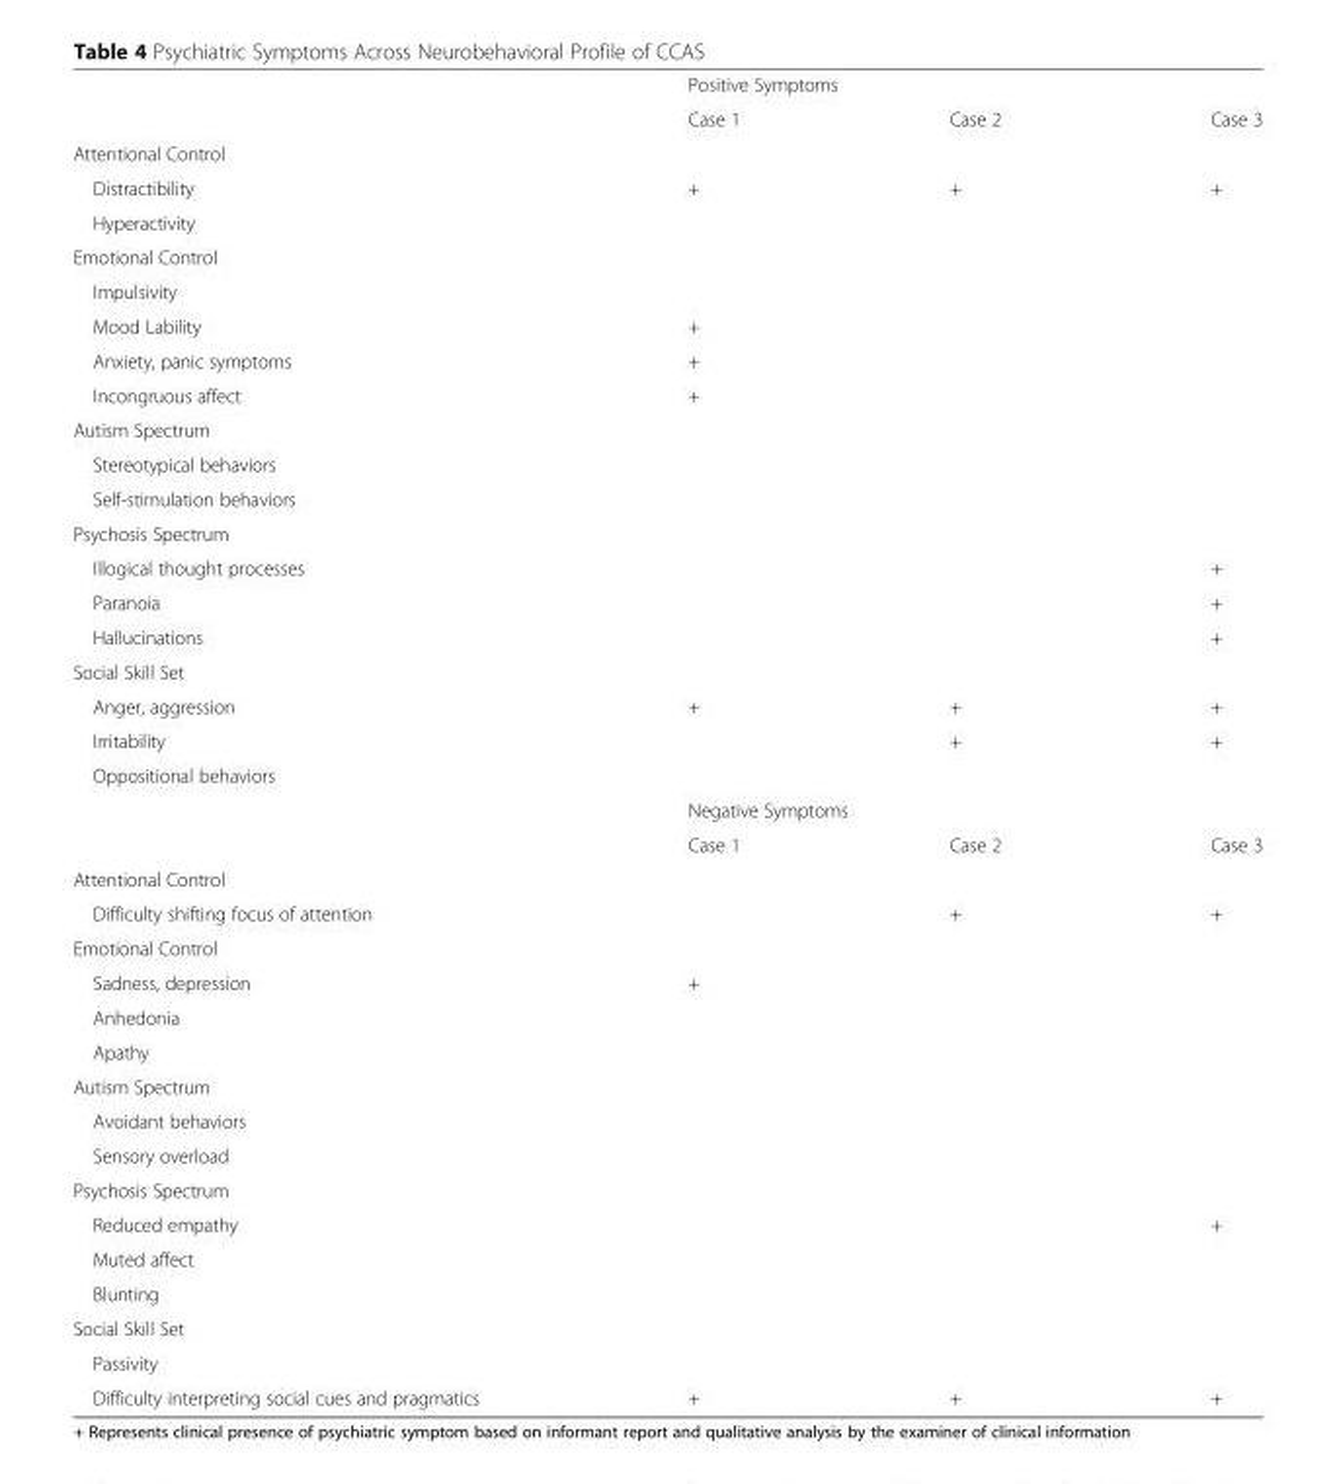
<table><thead><tr><td rowspan="2"></td><td colspan="3">Positive Symptoms</td></tr><tr><td>Case 1</td><td>Case 2</td><td>Case 3</td></tr></thead><tbody><tr><td colspan="4">Attentional Control</td></tr><tr><td>Distractibility</td><td>+</td><td>+</td><td>+</td></tr><tr><td colspan="4">Hyperactivity</td></tr><tr><td colspan="4">Emotional Control</td></tr><tr><td colspan="4">Impulsivity</td></tr><tr><td>Mood Lability</td><td>+</td><td></td><td></td></tr><tr><td>Anxiety, panic symptoms</td><td>+</td><td></td><td></td></tr><tr><td>Incongruous affect</td><td>+</td><td></td><td></td></tr><tr><td colspan="4">Autism Spectrum</td></tr><tr><td colspan="4">Stereotypical behaviors</td></tr><tr><td colspan="4">Self-stimulation behaviors</td></tr><tr><td colspan="4">Psychosis Spectrum</td></tr><tr><td>Illogical thought processes</td><td></td><td></td><td>+</td></tr><tr><td>Paranoia</td><td></td><td></td><td>+</td></tr><tr><td>Hallucinations</td><td></td><td></td><td>+</td></tr><tr><td colspan="4">Social Skill Set</td></tr><tr><td>Anger, aggression</td><td>+</td><td>+</td><td>+</td></tr><tr><td>Irritability</td><td></td><td>+</td><td>+</td></tr><tr><td colspan="4">Oppositional behaviors</td></tr><tr><td></td><td colspan="3">Negative Symptoms</td></tr><tr><td></td><td>Case 1</td><td>Case 2</td><td>Case 3</td></tr><tr><td colspan="4">Attentional Control</td></tr><tr><td>Difficulty shifting focus of attention</td><td></td><td>+</td><td>+</td></tr><tr><td colspan="4">Emotional Control</td></tr><tr><td>Sadness, depression</td><td>+</td><td></td><td></td></tr><tr><td colspan="4">Anhedonia</td></tr><tr><td colspan="4">Apathy</td></tr><tr><td colspan="4">Autism Spectrum</td></tr><tr><td colspan="4">Avoidant behaviors</td></tr><tr><td colspan="4">Sensory overload</td></tr><tr><td colspan="4">Psychosis Spectrum</td></tr><tr><td>Reduced empathy</td><td></td><td></td><td>+</td></tr><tr><td colspan="4">Muted affect</td></tr><tr><td colspan="4">Blunting</td></tr><tr><td colspan="4">Social Skill Set</td></tr><tr><td colspan="4">Passivity</td></tr><tr><td>Difficulty interpreting social cues and pragmatics</td><td>+</td><td>+</td><td>+</td></tr></tbody></table>